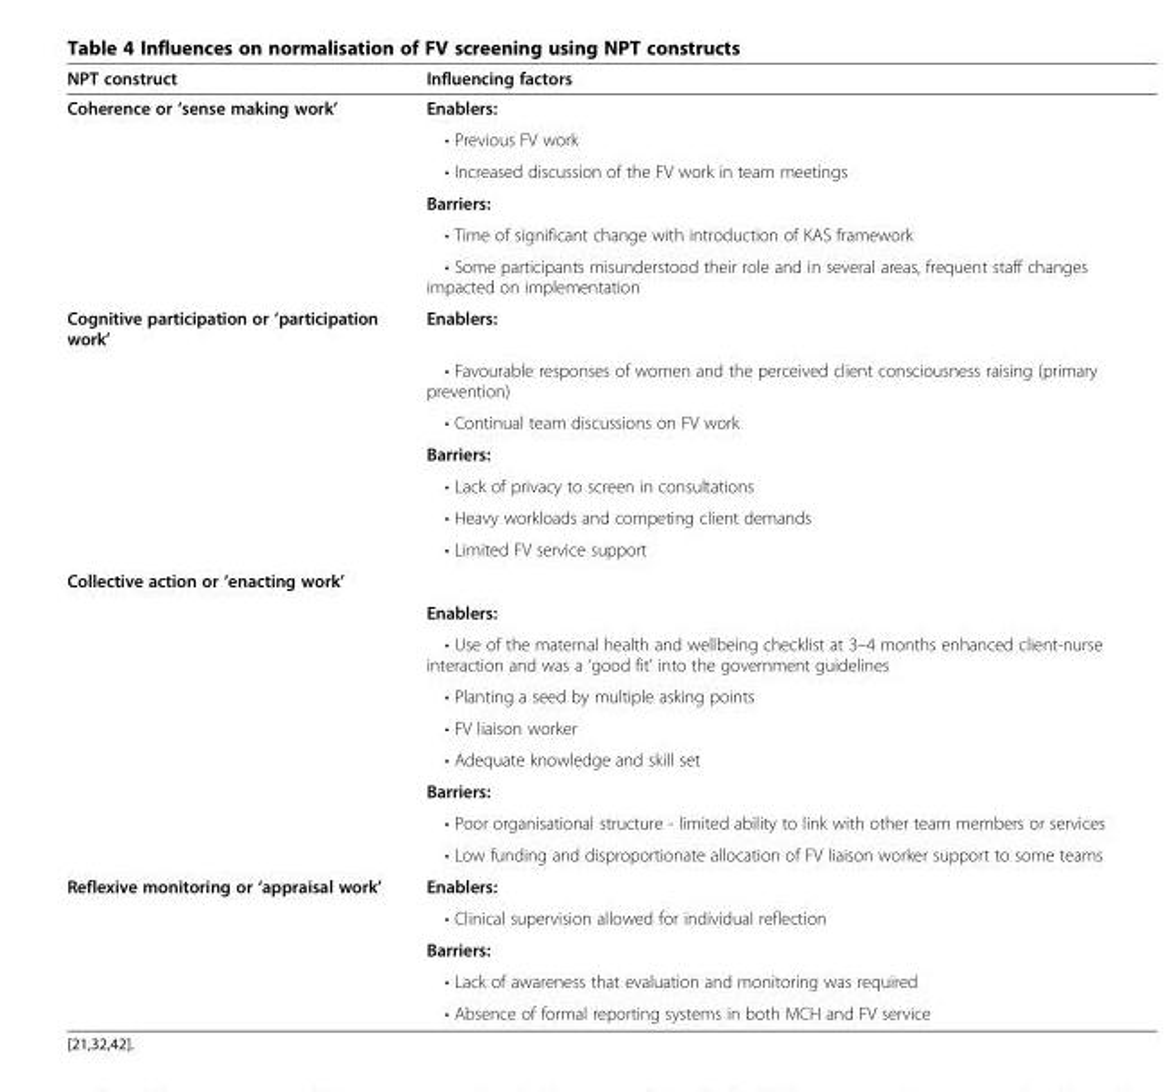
<table><thead><tr><td>NPT construct</td><td>Influencing factors</td></tr></thead><tbody><tr><td rowspan="6">Coherence or ‘sense making work’</td><td>Enablers:</td></tr><tr><td>• Previous FV work</td></tr><tr><td>• Increased discussion of the FV work in team meetings</td></tr><tr><td>Barriers:</td></tr><tr><td>• Time of significant change with introduction of KAS framework</td></tr><tr><td>• Some participants misunderstood their role and in several areas, frequent staff changes impacted on implementation</td></tr><tr><td rowspan="7">Cognitive participation or ‘participation work’</td><td>Enablers:</td></tr><tr><td>• Favourable responses of women and the perceived client consciousness raising (primary prevention)</td></tr><tr><td>• Continual team discussions on FV work</td></tr><tr><td>Barriers:</td></tr><tr><td>• Lack of privacy to screen in consultations</td></tr><tr><td>• Heavy workloads and competing client demands</td></tr><tr><td>• Limited FV service support</td></tr><tr><td colspan="2">Collective action or ‘enacting work’</td></tr><tr><td></td><td>Enablers:</td></tr><tr><td></td><td>• Use of the maternal health and wellbeing checklist at 3–4 months enhanced client-nurse interaction and was a ‘good fit’ into the government guidelines</td></tr><tr><td></td><td>• Planting a seed by multiple asking points</td></tr><tr><td></td><td>• FV liaison worker</td></tr><tr><td></td><td>• Adequate knowledge and skill set</td></tr><tr><td></td><td>Barriers:</td></tr><tr><td></td><td>• Poor organisational structure - limited ability to link with other team members or services</td></tr><tr><td></td><td>• Low funding and disproportionate allocation of FV liaison worker support to some teams</td></tr><tr><td rowspan="5">Reflexive monitoring or ‘appraisal work’</td><td>Enablers:</td></tr><tr><td>• Clinical supervision allowed for individual reflection</td></tr><tr><td>Barriers:</td></tr><tr><td>• Lack of awareness that evaluation and monitoring was required</td></tr><tr><td>• Absence of formal reporting systems in both MCH and FV service</td></tr></tbody></table>